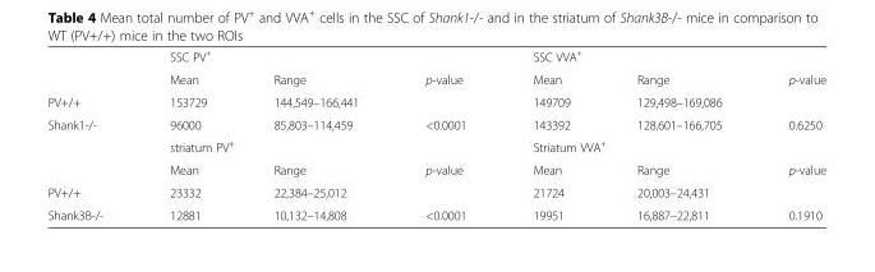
<table><thead><tr><td rowspan="2"></td><td colspan="3">SSC PV<sup>+</sup></td><td colspan="3">SSC VVA<sup>+</sup></td></tr><tr><td>Mean</td><td>Range</td><td>p-value</td><td>Mean</td><td>Range</td><td>p-value</td></tr></thead><tbody><tr><td>PV+/+</td><td>153729</td><td>144,549–166,441</td><td></td><td>149709</td><td>129,498–169,086</td><td></td></tr><tr><td rowspan="3">Shank1-/-</td><td>96000</td><td>85,803–114,459</td><td>&lt;0.0001</td><td>143392</td><td>128,601–166,705</td><td>0.6250</td></tr><tr><td colspan="3">striatum PV<sup>+</sup></td><td colspan="3">Striatum VVA<sup>+</sup></td></tr><tr><td>Mean</td><td>Range</td><td>p-value</td><td>Mean</td><td>Range</td><td>p-value</td></tr><tr><td>PV+/+</td><td>23332</td><td>22,384–25,012</td><td></td><td>21724</td><td>20,003–24,431</td><td></td></tr><tr><td>Shank3B-/-</td><td>12881</td><td>10,132–14,808</td><td>&lt;0.0001</td><td>19951</td><td>16,887–22,811</td><td>0.1910</td></tr></tbody></table>